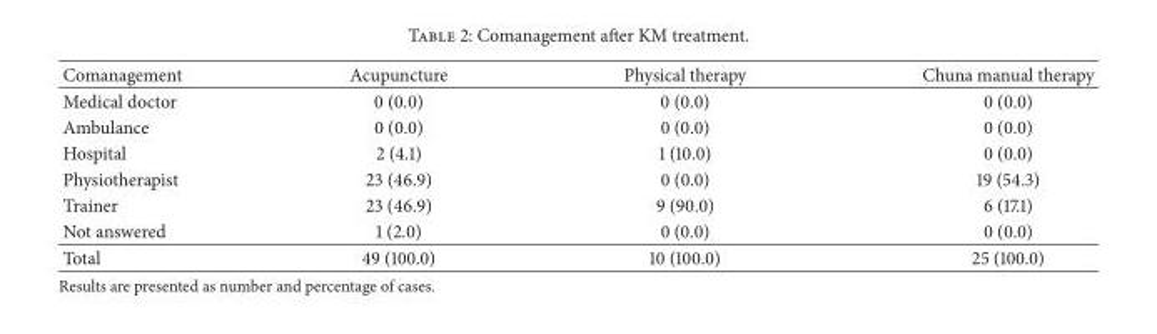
<table><thead><tr><td>Comanagement</td><td>Acupuncture</td><td>Physical therapy</td><td>Chuna manual therapy</td></tr></thead><tbody><tr><td>Medical doctor</td><td>0 (0.0)</td><td>0 (0.0)</td><td>0 (0.0)</td></tr><tr><td>Ambulance</td><td>0 (0.0)</td><td>0 (0.0)</td><td>0 (0.0)</td></tr><tr><td>Hospital</td><td>2 (4.1)</td><td>1 (10.0)</td><td>0 (0.0)</td></tr><tr><td>Physiotherapist</td><td>23 (46.9)</td><td>0 (0.0)</td><td>19 (54.3)</td></tr><tr><td>Trainer</td><td>23 (46.9)</td><td>9 (90.0)</td><td>6 (17.1)</td></tr><tr><td>Not answered</td><td>1 (2.0)</td><td>0 (0.0)</td><td>0 (0.0)</td></tr><tr><td>Total</td><td>49 (100.0)</td><td>10 (100.0)</td><td>25 (100.0)</td></tr></tbody></table>